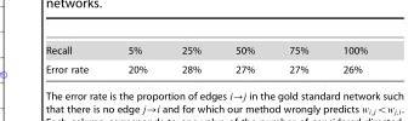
<table><tbody><tr><td>Recall</td><td>5%</td><td>25%</td><td>50%</td><td>75%</td><td>100%</td></tr><tr><td>Error rate</td><td>20%</td><td>28%</td><td>27%</td><td>27%</td><td>26%</td></tr></tbody></table>